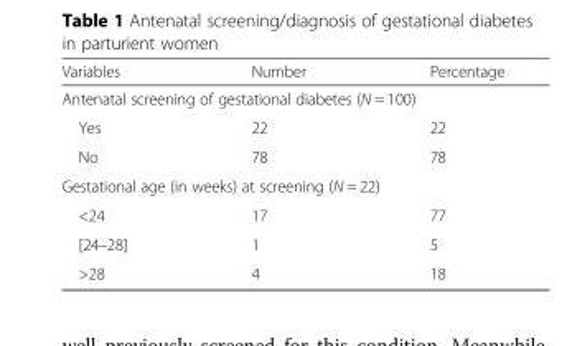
<table><thead><tr><td>Variables</td><td>Number</td><td>Percentage</td></tr></thead><tbody><tr><td colspan="3">Antenatal screening of gestational diabetes (N = 100)</td></tr><tr><td>Yes</td><td>22</td><td>22</td></tr><tr><td>No</td><td>78</td><td>78</td></tr><tr><td colspan="3">Gestational age (in weeks) at screening (N = 22)</td></tr><tr><td>&lt;24</td><td>17</td><td>77</td></tr><tr><td>[24–28]</td><td>1</td><td>5</td></tr><tr><td>&gt;28</td><td>4</td><td>18</td></tr></tbody></table>